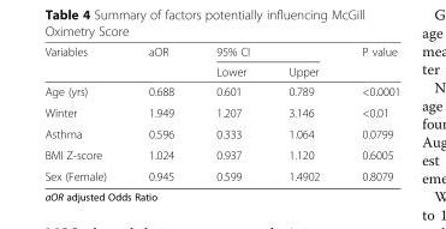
<table><thead><tr><td rowspan="2">Variables</td><td rowspan="2">aOR</td><td colspan="2">95% CI</td><td rowspan="2">P value</td></tr><tr><td>Lower</td><td>Upper</td></tr></thead><tbody><tr><td>Age (yrs)</td><td>0.688</td><td>0.601</td><td>0.789</td><td>&lt;0.0001</td></tr><tr><td>Winter</td><td>1.949</td><td>1.207</td><td>3.146</td><td>&lt;0.01</td></tr><tr><td>Asthma</td><td>0.596</td><td>0.333</td><td>1.064</td><td>0.0799</td></tr><tr><td>BMI Z-score</td><td>1.024</td><td>0.937</td><td>1.120</td><td>0.6005</td></tr><tr><td>Sex (Female)</td><td>0.945</td><td>0.599</td><td>1.4902</td><td>0.8079</td></tr></tbody></table>